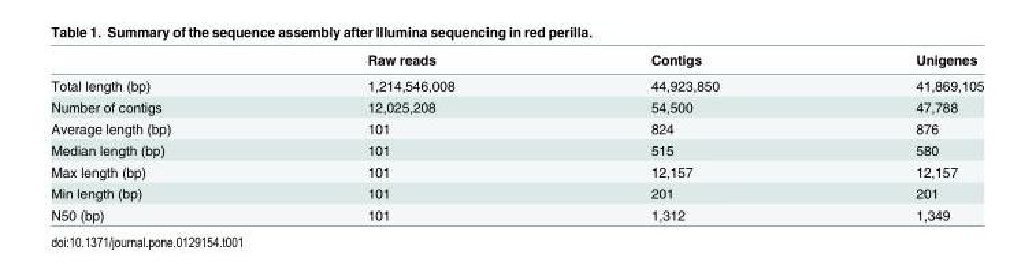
<table><thead><tr><td></td><td>Raw reads</td><td>Contigs</td><td>Unigenes</td></tr></thead><tbody><tr><td>Total length (bp)</td><td>1,214,546,008</td><td>44,923,850</td><td>41,869,105</td></tr><tr><td>Number of contigs</td><td>12,025,208</td><td>54,500</td><td>47,788</td></tr><tr><td>Average length (bp)</td><td>101</td><td>824</td><td>876</td></tr><tr><td>Median length (bp)</td><td>101</td><td>515</td><td>580</td></tr><tr><td>Max length (bp)</td><td>101</td><td>12,157</td><td>12,157</td></tr><tr><td>Min length (bp)</td><td>101</td><td>201</td><td>201</td></tr><tr><td>N50 (bp)</td><td>101</td><td>1,312</td><td>1,349</td></tr></tbody></table>